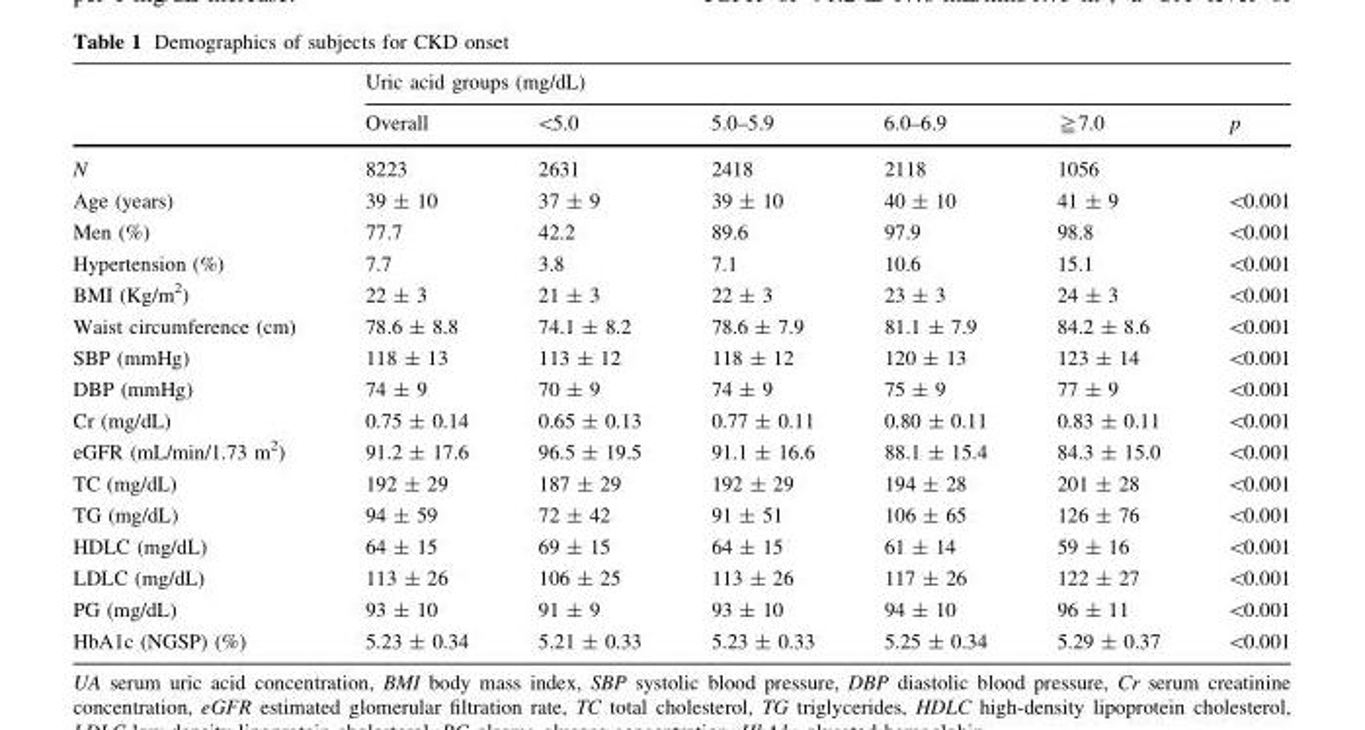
<table><thead><tr><td rowspan="2"></td><td colspan="6">Uric acid groups (mg/dL)</td></tr><tr><td>Overall</td><td>&lt;5.0</td><td>5.0–5.9</td><td>6.0–6.9</td><td>≧7.0</td><td>p</td></tr></thead><tbody><tr><td>N</td><td>8223</td><td>2631</td><td>2418</td><td>2118</td><td>1056</td><td></td></tr><tr><td>Age (years)</td><td>39 ± 10</td><td>37 ± 9</td><td>39 ± 10</td><td>40 ± 10</td><td>41 ± 9</td><td>&lt;0.001</td></tr><tr><td>Men (%)</td><td>77.7</td><td>42.2</td><td>89.6</td><td>97.9</td><td>98.8</td><td>&lt;0.001</td></tr><tr><td>Hypertension (%)</td><td>7.7</td><td>3.8</td><td>7.1</td><td>10.6</td><td>15.1</td><td>&lt;0.001</td></tr><tr><td>BMI (Kg/m<sup>2</sup>)</td><td>22 ± 3</td><td>21 ± 3</td><td>22 ± 3</td><td>23 ± 3</td><td>24 ± 3</td><td>&lt;0.001</td></tr><tr><td>Waist circumference (cm)</td><td>78.6 ± 8.8</td><td>74.1 ± 8.2</td><td>78.6 ± 7.9</td><td>81.1 ± 7.9</td><td>84.2 ± 8.6</td><td>&lt;0.001</td></tr><tr><td>SBP (mmHg)</td><td>118 ± 13</td><td>113 ± 12</td><td>118 ± 12</td><td>120 ± 13</td><td>123 ± 14</td><td>&lt;0.001</td></tr><tr><td>DBP (mmHg)</td><td>74 ± 9</td><td>70 ± 9</td><td>74 ± 9</td><td>75 ± 9</td><td>77 ± 9</td><td>&lt;0.001</td></tr><tr><td>Cr (mg/dL)</td><td>0.75 ± 0.14</td><td>0.65 ± 0.13</td><td>0.77 ± 0.11</td><td>0.80 ± 0.11</td><td>0.83 ± 0.11</td><td>&lt;0.001</td></tr><tr><td>eGFR (mL/min/1.73 m<sup>2</sup>)</td><td>91.2 ± 17.6</td><td>96.5 ± 19.5</td><td>91.1 ± 16.6</td><td>88.1 ± 15.4</td><td>84.3 ± 15.0</td><td>&lt;0.001</td></tr><tr><td>TC (mg/dL)</td><td>192 ± 29</td><td>187 ± 29</td><td>192 ± 29</td><td>194 ± 28</td><td>201 ± 28</td><td>&lt;0.001</td></tr><tr><td>TG (mg/dL)</td><td>94 ± 59</td><td>72 ± 42</td><td>91 ± 51</td><td>106 ± 65</td><td>126 ± 76</td><td>&lt;0.001</td></tr><tr><td>HDLC (mg/dL)</td><td>64 ± 15</td><td>69 ± 15</td><td>64 ± 15</td><td>61 ± 14</td><td>59 ± 16</td><td>&lt;0.001</td></tr><tr><td>LDLC (mg/dL)</td><td>113 ± 26</td><td>106 ± 25</td><td>113 ± 26</td><td>117 ± 26</td><td>122 ± 27</td><td>&lt;0.001</td></tr><tr><td>PG (mg/dL)</td><td>93 ± 10</td><td>91 ± 9</td><td>93 ± 10</td><td>94 ± 10</td><td>96 ± 11</td><td>&lt;0.001</td></tr><tr><td>HbA1c (NGSP) (%)</td><td>5.23 ± 0.34</td><td>5.21 ± 0.33</td><td>5.23 ± 0.33</td><td>5.25 ± 0.34</td><td>5.29 ± 0.37</td><td>&lt;0.001</td></tr></tbody></table>